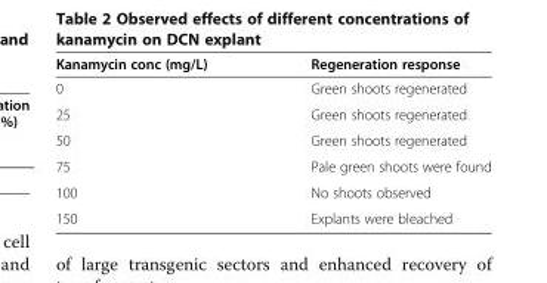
<table><thead><tr><td>Kanamycin conc (mg/L)</td><td>Regeneration response</td></tr></thead><tbody><tr><td>0</td><td>Green shoots regenerated</td></tr><tr><td>25</td><td>Green shoots regenerated</td></tr><tr><td>50</td><td>Green shoots regenerated</td></tr><tr><td>75</td><td>Pale green shoots were found</td></tr><tr><td>100</td><td>No shoots observed</td></tr><tr><td>150</td><td>Explants were bleached</td></tr></tbody></table>